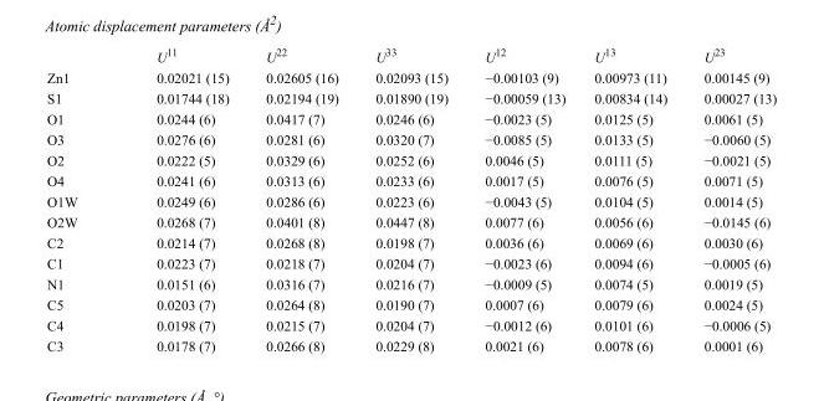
<table><thead><tr><td></td><td>U<sup>11</sup></td><td>U<sup>22</sup></td><td>U<sup>33</sup></td><td>U<sup>12</sup></td><td>U<sup>13</sup></td><td>U<sup>23</sup></td></tr></thead><tbody><tr><td>Zn1</td><td>0.02021 (15)</td><td>0.02605 (16)</td><td>0.02093 (15)</td><td>−0.00103 (9)</td><td>0.00973 (11)</td><td>0.00145 (9)</td></tr><tr><td>S1</td><td>0.01744 (18)</td><td>0.02194 (19)</td><td>0.01890 (19)</td><td>−0.00059 (13)</td><td>0.00834 (14)</td><td>0.00027 (13)</td></tr><tr><td>O1</td><td>0.0244 (6)</td><td>0.0417 (7)</td><td>0.0246 (6)</td><td>−0.0023 (5)</td><td>0.0125 (5)</td><td>0.0061 (5)</td></tr><tr><td>O3</td><td>0.0276 (6)</td><td>0.0281 (6)</td><td>0.0320 (7)</td><td>−0.0085 (5)</td><td>0.0133 (5)</td><td>−0.0060 (5)</td></tr><tr><td>O2</td><td>0.0222 (5)</td><td>0.0329 (6)</td><td>0.0252 (6)</td><td>0.0046 (5)</td><td>0.0111 (5)</td><td>−0.0021 (5)</td></tr><tr><td>O4</td><td>0.0241 (6)</td><td>0.0313 (6)</td><td>0.0233 (6)</td><td>0.0017 (5)</td><td>0.0076 (5)</td><td>0.0071 (5)</td></tr><tr><td>O1W</td><td>0.0249 (6)</td><td>0.0286 (6)</td><td>0.0223 (6)</td><td>−0.0043 (5)</td><td>0.0104 (5)</td><td>0.0014 (5)</td></tr><tr><td>O2W</td><td>0.0268 (7)</td><td>0.0401 (8)</td><td>0.0447 (8)</td><td>0.0077 (6)</td><td>0.0056 (6)</td><td>−0.0145 (6)</td></tr><tr><td>C2</td><td>0.0214 (7)</td><td>0.0268 (8)</td><td>0.0198 (7)</td><td>0.0036 (6)</td><td>0.0069 (6)</td><td>0.0030 (6)</td></tr><tr><td>C1</td><td>0.0223 (7)</td><td>0.0218 (7)</td><td>0.0204 (7)</td><td>−0.0023 (6)</td><td>0.0094 (6)</td><td>−0.0005 (6)</td></tr><tr><td>N1</td><td>0.0151 (6)</td><td>0.0316 (7)</td><td>0.0216 (7)</td><td>−0.0009 (5)</td><td>0.0074 (5)</td><td>0.0019 (5)</td></tr><tr><td>C5</td><td>0.0203 (7)</td><td>0.0264 (8)</td><td>0.0190 (7)</td><td>0.0007 (6)</td><td>0.0079 (6)</td><td>0.0024 (5)</td></tr><tr><td>C4</td><td>0.0198 (7)</td><td>0.0215 (7)</td><td>0.0204 (7)</td><td>−0.0012 (6)</td><td>0.0101 (6)</td><td>−0.0006 (5)</td></tr><tr><td>C3</td><td>0.0178 (7)</td><td>0.0266 (8)</td><td>0.0229 (8)</td><td>0.0021 (6)</td><td>0.0078 (6)</td><td>0.0001 (6)</td></tr></tbody></table>